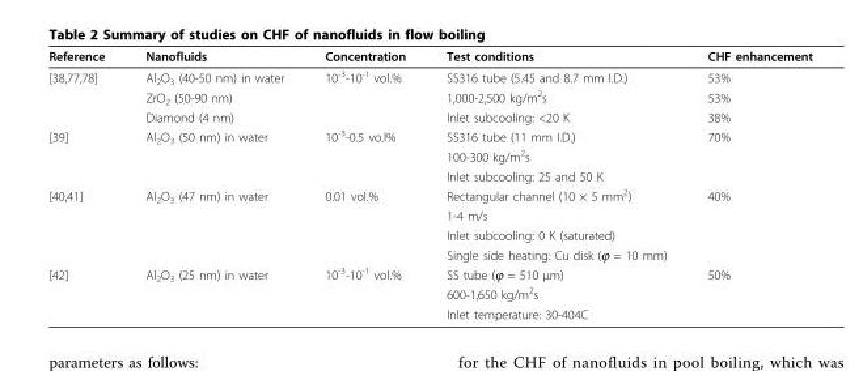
<table><thead><tr><td>Reference</td><td>Nanofluids</td><td>Concentration</td><td>Test conditions</td><td>CHF enhancement</td></tr></thead><tbody><tr><td rowspan="3">[38,77,78]</td><td>Al<sub>2</sub>O<sub>3</sub> (40-50 nm) in water</td><td>10<sup>-3</sup>-10<sup>-1</sup> vol.%</td><td>SS316 tube (5.45 and 8.7 mm I.D.)</td><td>53%</td></tr><tr><td>ZrO<sub>2</sub> (50-90 nm)</td><td></td><td>1,000-2,500 kg/m<sup>2</sup>s</td><td>53%</td></tr><tr><td>Diamond (4 nm)</td><td></td><td>Inlet subcooling: &lt;20 K</td><td>38%</td></tr><tr><td rowspan="3">[39]</td><td>Al<sub>2</sub>O<sub>3</sub> (50 nm) in water</td><td>10<sup>-3</sup>-0.5 vo.l%</td><td>SS316 tube (11 mm I.D.)</td><td>70%</td></tr><tr><td></td><td></td><td>100-300 kg/m<sup>2</sup>s</td><td></td></tr><tr><td></td><td></td><td>Inlet subcooling: 25 and 50 K</td><td></td></tr><tr><td rowspan="4">[40,41]</td><td>Al<sub>2</sub>O<sub>3</sub> (47 nm) in water</td><td>0.01 vol.%</td><td>Rectangular channel (10 × 5 mm<sup>2</sup>)</td><td>40%</td></tr><tr><td></td><td></td><td>1-4 m/s</td><td></td></tr><tr><td></td><td></td><td>Inlet subcooling: 0 K (saturated)</td><td></td></tr><tr><td></td><td></td><td>Single side heating: Cu disk (ϕ = 10 mm)</td><td></td></tr><tr><td rowspan="3">[42]</td><td>Al<sub>2</sub>O<sub>3</sub> (25 nm) in water</td><td>10<sup>-3</sup>-10<sup>-1</sup> vol.%</td><td>SS tube (ϕ = 510 μm)</td><td>50%</td></tr><tr><td></td><td></td><td>600-1,650 kg/m<sup>2</sup>s</td><td></td></tr><tr><td></td><td></td><td>Inlet temperature: 30-404C</td><td></td></tr></tbody></table>